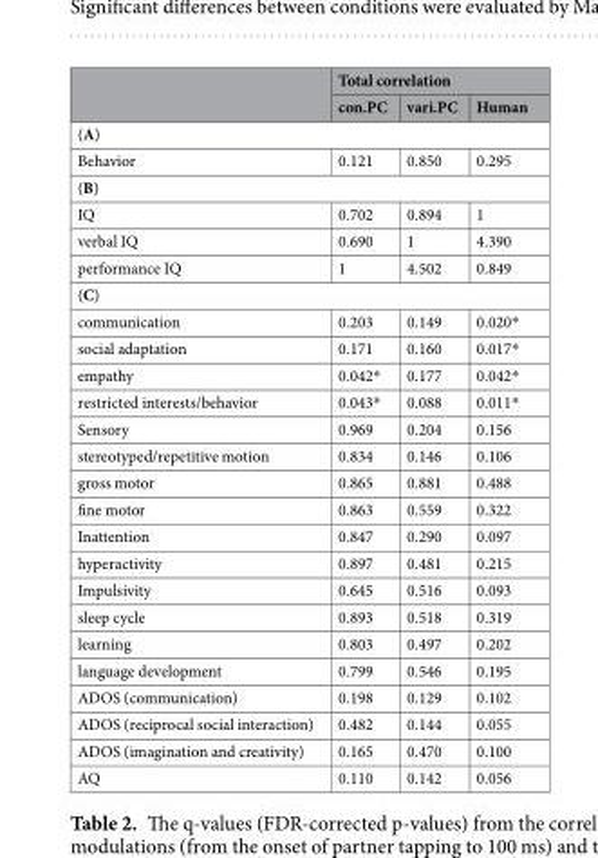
<table><thead><tr><td rowspan="2"></td><td colspan="3">Total correlation</td></tr><tr><td>con.PC</td><td>vari.PC</td><td>Human</td></tr></thead><tbody><tr><td colspan="4">(A)</td></tr><tr><td>Behavior</td><td>0.121</td><td>0.850</td><td>0.295</td></tr><tr><td colspan="4">(B)</td></tr><tr><td>IQ</td><td>0.702</td><td>0.894</td><td>1</td></tr><tr><td>verbal IQ</td><td>0.690</td><td>1</td><td>4.390</td></tr><tr><td>performance IQ</td><td>1</td><td>4.502</td><td>0.849</td></tr><tr><td colspan="4">(C)</td></tr><tr><td>communication</td><td>0.203</td><td>0.149</td><td>0.020*</td></tr><tr><td>social adaptation</td><td>0.171</td><td>0.160</td><td>0.017*</td></tr><tr><td>empathy</td><td>0.042*</td><td>0.177</td><td>0.042*</td></tr><tr><td>restricted interests/behavior</td><td>0.043*</td><td>0.088</td><td>0.011*</td></tr><tr><td>Sensory</td><td>0.969</td><td>0.204</td><td>0.156</td></tr><tr><td>stereotyped/repetitive motion</td><td>0.834</td><td>0.146</td><td>0.106</td></tr><tr><td>gross motor</td><td>0.865</td><td>0.881</td><td>0.488</td></tr><tr><td>fine motor</td><td>0.863</td><td>0.559</td><td>0.322</td></tr><tr><td>Inattention</td><td>0.847</td><td>0.290</td><td>0.097</td></tr><tr><td>hyperactivity</td><td>0.897</td><td>0.481</td><td>0.215</td></tr><tr><td>Impulsivity</td><td>0.645</td><td>0.516</td><td>0.093</td></tr><tr><td>sleep cycle</td><td>0.893</td><td>0.518</td><td>0.319</td></tr><tr><td>learning</td><td>0.803</td><td>0.497</td><td>0.202</td></tr><tr><td>language development</td><td>0.799</td><td>0.546</td><td>0.195</td></tr><tr><td>ADOS (communication)</td><td>0.198</td><td>0.129</td><td>0.102</td></tr><tr><td>ADOS (reciprocal social interaction)</td><td>0.482</td><td>0.144</td><td>0.055</td></tr><tr><td>ADOS (imagination and creativity)</td><td>0.165</td><td>0.470</td><td>0.100</td></tr><tr><td>AQ</td><td>0.110</td><td>0.142</td><td>0.056</td></tr></tbody></table>